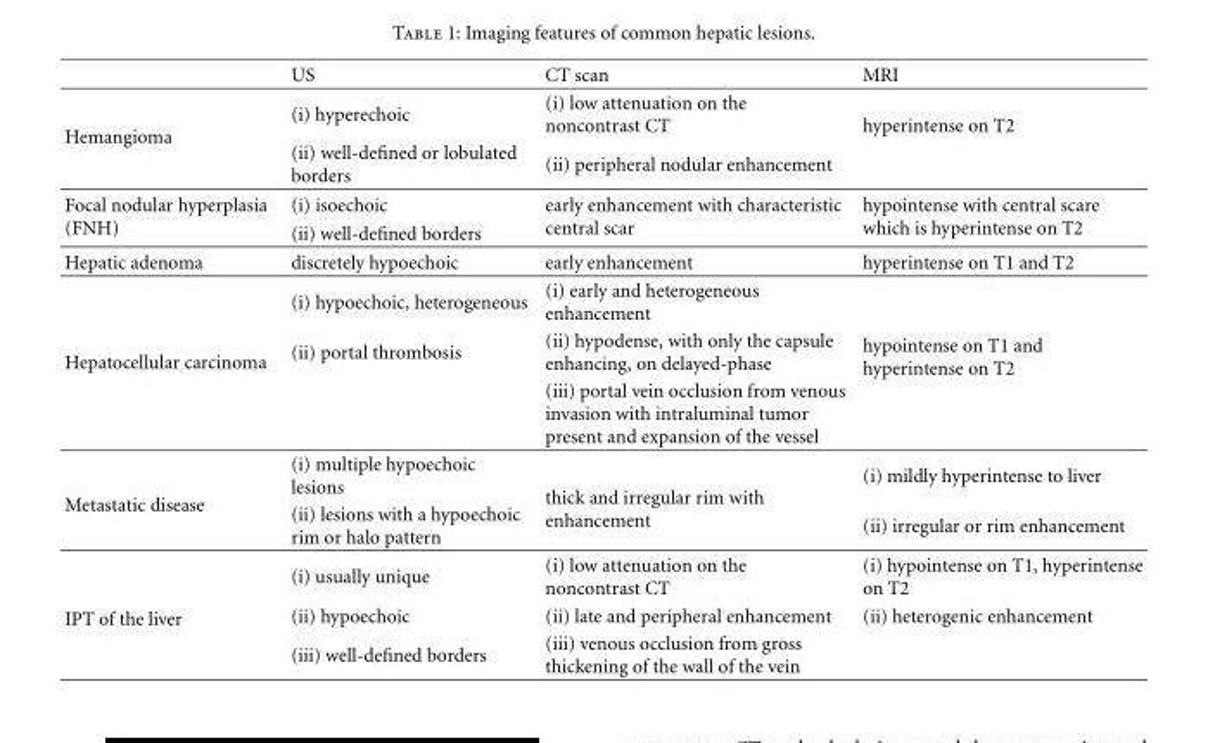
<table><thead><tr><td></td><td>US</td><td>CT scan</td><td>MRI</td></tr></thead><tbody><tr><td rowspan="2">Hemangioma</td><td>(i) hyperechoic</td><td>(i) low attenuation on the noncontrast CT</td><td rowspan="2">hyperintense on T2</td></tr><tr><td>(ii) well-defined or lobulated borders</td><td>(ii) peripheral nodular enhancement</td></tr><tr><td rowspan="2">Focal nodular hyperplasia (FNH)</td><td>(i) isoechoic</td><td rowspan="2">early enhancement with characteristic central scar</td><td rowspan="2">hypointense with central scare which is hyperintense on T2</td></tr><tr><td>(ii) well-defined borders</td></tr><tr><td>Hepatic adenoma</td><td>discretely hypoechoic</td><td>early enhancement</td><td>hyperintense on T1 and T2</td></tr><tr><td rowspan="3">Hepatocellular carcinoma</td><td>(i) hypoechoic, heterogeneous</td><td>(i) early and heterogeneous enhancement</td><td rowspan="3">hypointense on T1 and hyperintense on T2</td></tr><tr><td>(ii) portal thrombosis</td><td>(ii) hypodense, with only the capsule enhancing, on delayed-phase</td></tr><tr><td></td><td>(iii) portal vein occlusion from venous invasion with intraluminal tumor present and expansion of the vessel</td></tr><tr><td rowspan="2">Metastatic disease</td><td>(i) multiple hypoechoic lesions</td><td rowspan="2">thick and irregular rim with enhancement</td><td>(i) mildly hyperintense to liver</td></tr><tr><td>(ii) lesions with a hypoechoic rim or halo pattern</td><td>(ii) irregular or rim enhancement</td></tr><tr><td rowspan="3">IPT of the liver</td><td>(i) usually unique</td><td>(i) low attenuation on the noncontrast CT</td><td>(i) hypointense on T1, hyperintense on T2</td></tr><tr><td>(ii) hypoechoic</td><td>(ii) late and peripheral enhancement</td><td>(ii) heterogenic enhancement</td></tr><tr><td>(iii) well-defined borders</td><td>(iii) venous occlusion from gross thickening of the wall of the vein</td><td></td></tr></tbody></table>